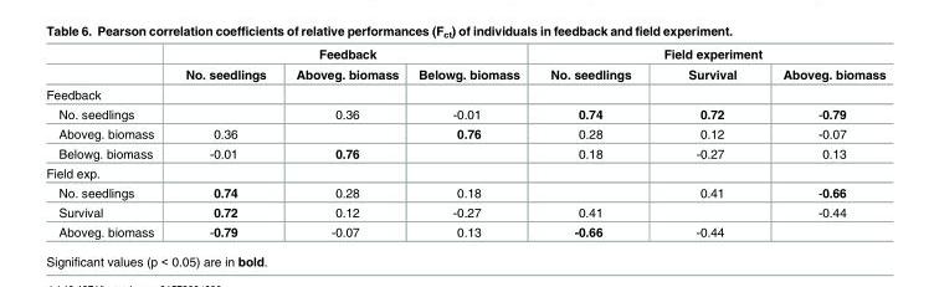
<table><thead><tr><td rowspan="2"></td><td colspan="3">Feedback</td><td colspan="3">Field experiment</td></tr><tr><td>No. seedlings</td><td>Aboveg. biomass</td><td>Belowg. biomass</td><td>No. seedlings</td><td>Survival</td><td>Aboveg. biomass</td></tr></thead><tbody><tr><td colspan="7">Feedback</td></tr><tr><td>No. seedlings</td><td></td><td>0.36</td><td>-0.01</td><td>0.74</td><td>0.72</td><td>-0.79</td></tr><tr><td>Aboveg. biomass</td><td>0.36</td><td></td><td>0.76</td><td>0.28</td><td>0.12</td><td>-0.07</td></tr><tr><td>Belowg. biomass</td><td>-0.01</td><td>0.76</td><td></td><td>0.18</td><td>-0.27</td><td>0.13</td></tr><tr><td colspan="7">Field exp.</td></tr><tr><td>No. seedlings</td><td>0.74</td><td>0.28</td><td>0.18</td><td></td><td>0.41</td><td>-0.66</td></tr><tr><td>Survival</td><td>0.72</td><td>0.12</td><td>-0.27</td><td>0.41</td><td></td><td>-0.44</td></tr><tr><td>Aboveg. biomass</td><td>-0.79</td><td>-0.07</td><td>0.13</td><td>-0.66</td><td>-0.44</td><td></td></tr></tbody></table>